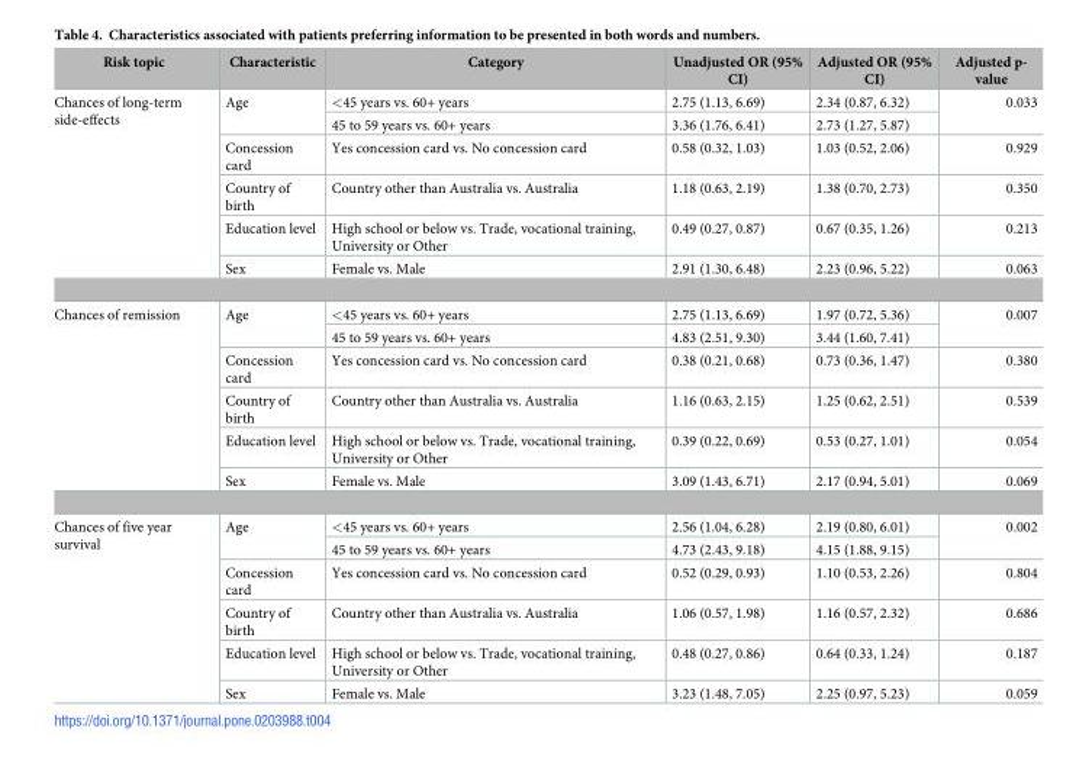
<table><thead><tr><td>Risk topic</td><td>Characteristic</td><td>Category</td><td>Unadjusted OR (95% CI)</td><td>Adjusted OR (95% CI)</td><td>Adjusted p- value</td></tr></thead><tbody><tr><td rowspan="6">Chances of long-term side-effects</td><td rowspan="2">Age</td><td>&lt;45 years vs. 60+ years</td><td>2.75 (1.13, 6.69)</td><td>2.34 (0.87, 6.32)</td><td rowspan="2">0.033</td></tr><tr><td>45 to 59 years vs. 60+ years</td><td>3.36 (1.76, 6.41)</td><td>2.73 (1.27, 5.87)</td></tr><tr><td>Concession card</td><td>Yes concession card vs. No concession card</td><td>0.58 (0.32, 1.03)</td><td>1.03 (0.52, 2.06)</td><td>0.929</td></tr><tr><td>Country of birth</td><td>Country other than Australia vs. Australia</td><td>1.18 (0.63, 2.19)</td><td>1.38 (0.70, 2.73)</td><td>0.350</td></tr><tr><td>Education level</td><td>High school or below vs. Trade, vocational training, University or Other</td><td>0.49 (0.27, 0.87)</td><td>0.67 (0.35, 1.26)</td><td>0.213</td></tr><tr><td>Sex</td><td>Female vs. Male</td><td>2.91 (1.30, 6.48)</td><td>2.23 (0.96, 5.22)</td><td>0.063</td></tr><tr><td rowspan="6">Chances of remission</td><td rowspan="2">Age</td><td>&lt;45 years vs. 60+ years</td><td>2.75 (1.13, 6.69)</td><td>1.97 (0.72, 5.36)</td><td rowspan="2">0.007</td></tr><tr><td>45 to 59 years vs. 60+ years</td><td>4.83 (2.51, 9.30)</td><td>3.44 (1.60, 7.41)</td></tr><tr><td>Concession card</td><td>Yes concession card vs. No concession card</td><td>0.38 (0.21, 0.68)</td><td>0.73 (0.36, 1.47)</td><td>0.380</td></tr><tr><td>Country of birth</td><td>Country other than Australia vs. Australia</td><td>1.16 (0.63, 2.15)</td><td>1.25 (0.62, 2.51)</td><td>0.539</td></tr><tr><td>Education level</td><td>High school or below vs. Trade, vocational training, University or Other</td><td>0.39 (0.22, 0.69)</td><td>0.53 (0.27, 1.01)</td><td>0.054</td></tr><tr><td>Sex</td><td>Female vs. Male</td><td>3.09 (1.43, 6.71)</td><td>2.17 (0.94, 5.01)</td><td>0.069</td></tr><tr><td rowspan="6">Chances of five year survival</td><td rowspan="2">Age</td><td>&lt;45 years vs. 60+ years</td><td>2.56 (1.04, 6.28)</td><td>2.19 (0.80, 6.01)</td><td rowspan="2">0.002</td></tr><tr><td>45 to 59 years vs. 60+ years</td><td>4.73 (2.43, 9.18)</td><td>4.15 (1.88, 9.15)</td></tr><tr><td>Concession card</td><td>Yes concession card vs. No concession card</td><td>0.52 (0.29, 0.93)</td><td>1.10 (0.53, 2.26)</td><td>0.804</td></tr><tr><td>Country of birth</td><td>Country other than Australia vs. Australia</td><td>1.06 (0.57, 1.98)</td><td>1.16 (0.57, 2.32)</td><td>0.686</td></tr><tr><td>Education level</td><td>High school or below vs. Trade, vocational training, University or Other</td><td>0.48 (0.27, 0.86)</td><td>0.64 (0.33, 1.24)</td><td>0.187</td></tr><tr><td>Sex</td><td>Female vs. Male</td><td>3.23 (1.48, 7.05)</td><td>2.25 (0.97, 5.23)</td><td>0.059</td></tr></tbody></table>